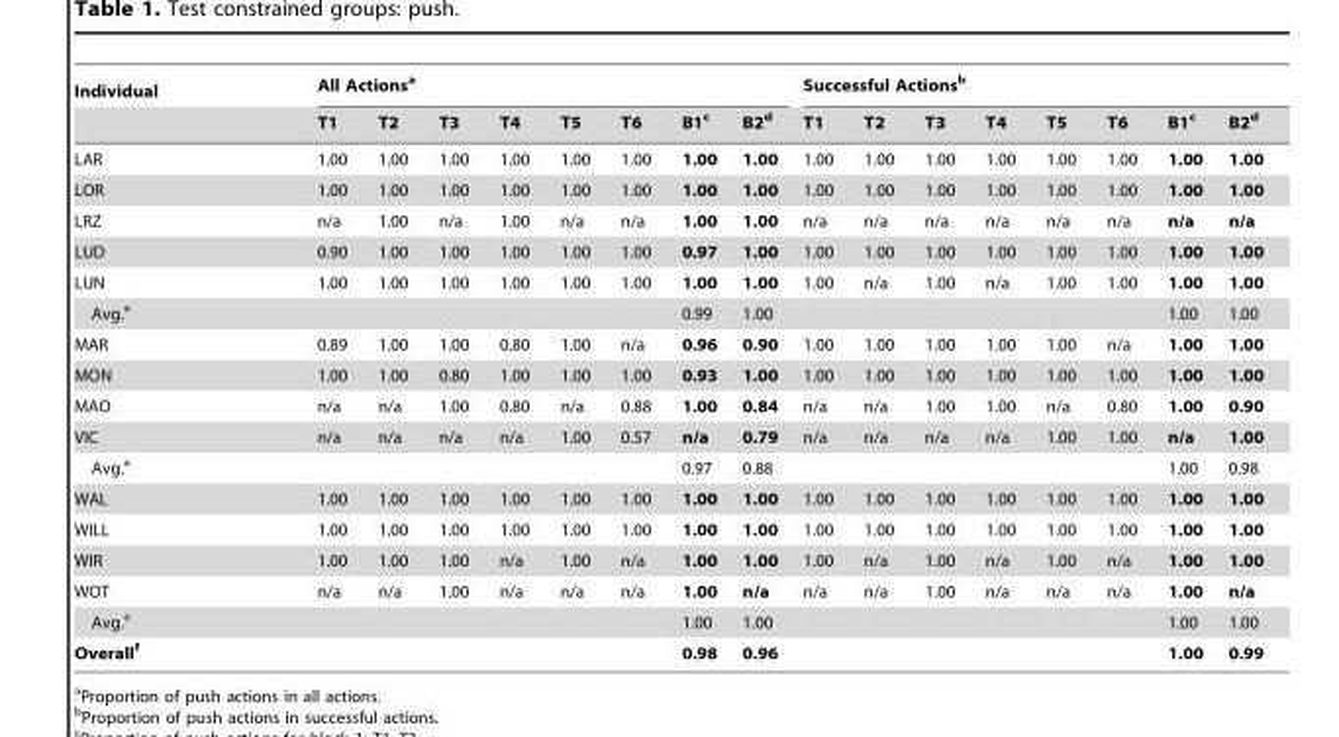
<table><thead><tr><td rowspan="2">Individual</td><td colspan="8">All Actions<sup>a</sup></td><td colspan="8">Successful Actions<sup>b</sup></td></tr><tr><td>T1</td><td>T2</td><td>T3</td><td>T4</td><td>T5</td><td>T6</td><td>B1<sup>c</sup></td><td>B2<sup>d</sup></td><td>T1</td><td>T2</td><td>T3</td><td>T4</td><td>T5</td><td>T6</td><td>B1<sup>c</sup></td><td>B2<sup>d</sup></td></tr></thead><tbody><tr><td>LAR</td><td>1.00</td><td>1.00</td><td>1.00</td><td>1.00</td><td>1.00</td><td>1.00</td><td>1.00</td><td>1.00</td><td>1.00</td><td>1.00</td><td>1.00</td><td>1.00</td><td>1.00</td><td>1.00</td><td>1.00</td><td>1.00</td></tr><tr><td>LOR</td><td>1.00</td><td>1.00</td><td>1.00</td><td>1.00</td><td>1.00</td><td>1.00</td><td>1.00</td><td>1.00</td><td>1.00</td><td>1.00</td><td>1.00</td><td>1.00</td><td>1.00</td><td>1.00</td><td>1.00</td><td>1.00</td></tr><tr><td>LRZ</td><td>n/a</td><td>1.00</td><td>n/a</td><td>1.00</td><td>n/a</td><td>n/a</td><td>1.00</td><td>1.00</td><td>n/a</td><td>n/a</td><td>n/a</td><td>n/a</td><td>n/a</td><td>n/a</td><td>n/a</td><td>n/a</td></tr><tr><td>LUD</td><td>0.90</td><td>1.00</td><td>1.00</td><td>1.00</td><td>1.00</td><td>1.00</td><td>0.97</td><td>1.00</td><td>1.00</td><td>1.00</td><td>1.00</td><td>1.00</td><td>1.00</td><td>1.00</td><td>1.00</td><td>1.00</td></tr><tr><td>LUN</td><td>1.00</td><td>1.00</td><td>1.00</td><td>1.00</td><td>1.00</td><td>1.00</td><td>1.00</td><td>1.00</td><td>1.00</td><td>n/a</td><td>1.00</td><td>n/a</td><td>1.00</td><td>1.00</td><td>1.00</td><td>1.00</td></tr><tr><td>Avg.<sup>e</sup></td><td></td><td></td><td></td><td></td><td></td><td></td><td>0.99</td><td>1.00</td><td></td><td></td><td></td><td></td><td></td><td></td><td>1.00</td><td>1.00</td></tr><tr><td>MAR</td><td>0.89</td><td>1.00</td><td>1.00</td><td>0.80</td><td>1.00</td><td>n/a</td><td>0.96</td><td>0.90</td><td>1.00</td><td>1.00</td><td>1.00</td><td>1.00</td><td>1.00</td><td>n/a</td><td>1.00</td><td>1.00</td></tr><tr><td>MON</td><td>1.00</td><td>1.00</td><td>0.80</td><td>1.00</td><td>1.00</td><td>1.00</td><td>0.93</td><td>1.00</td><td>1.00</td><td>1.00</td><td>1.00</td><td>1.00</td><td>1.00</td><td>1.00</td><td>1.00</td><td>1.00</td></tr><tr><td>MAO</td><td>n/a</td><td>n/a</td><td>1.00</td><td>0.80</td><td>n/a</td><td>0.88</td><td>1.00</td><td>0.84</td><td>n/a</td><td>n/a</td><td>1.00</td><td>1.00</td><td>n/a</td><td>0.80</td><td>1.00</td><td>0.90</td></tr><tr><td>VIC</td><td>n/a</td><td>n/a</td><td>n/a</td><td>n/a</td><td>1.00</td><td>0.57</td><td>n/a</td><td>0.79</td><td>n/a</td><td>n/a</td><td>n/a</td><td>n/a</td><td>1.00</td><td>1.00</td><td>n/a</td><td>1.00</td></tr><tr><td>Avg.<sup>e</sup></td><td></td><td></td><td></td><td></td><td></td><td></td><td>0.97</td><td>0.88</td><td></td><td></td><td></td><td></td><td></td><td></td><td>1.00</td><td>0.98</td></tr><tr><td>WAL</td><td>1.00</td><td>1.00</td><td>1.00</td><td>1.00</td><td>1.00</td><td>1.00</td><td>1.00</td><td>1.00</td><td>1.00</td><td>1.00</td><td>1.00</td><td>1.00</td><td>1.00</td><td>1.00</td><td>1.00</td><td>1.00</td></tr><tr><td>WILL</td><td>1.00</td><td>1.00</td><td>1.00</td><td>1.00</td><td>1.00</td><td>1.00</td><td>1.00</td><td>1.00</td><td>1.00</td><td>1.00</td><td>1.00</td><td>1.00</td><td>1.00</td><td>1.00</td><td>1.00</td><td>1.00</td></tr><tr><td>WIR</td><td>1.00</td><td>1.00</td><td>1.00</td><td>n/a</td><td>1.00</td><td>n/a</td><td>1.00</td><td>1.00</td><td>1.00</td><td>n/a</td><td>1.00</td><td>n/a</td><td>1.00</td><td>n/a</td><td>1.00</td><td>1.00</td></tr><tr><td>WOT</td><td>n/a</td><td>n/a</td><td>1.00</td><td>n/a</td><td>n/a</td><td>n/a</td><td>1.00</td><td>n/a</td><td>n/a</td><td>n/a</td><td>1.00</td><td>n/a</td><td>n/a</td><td>n/a</td><td>1.00</td><td>n/a</td></tr><tr><td>Avg.<sup>e</sup></td><td></td><td></td><td></td><td></td><td></td><td></td><td>1.00</td><td>1.00</td><td></td><td></td><td></td><td></td><td></td><td></td><td>1.00</td><td>1.00</td></tr><tr><td>Overallf</td><td></td><td></td><td></td><td></td><td></td><td></td><td>0.98</td><td>0.96</td><td></td><td></td><td></td><td></td><td></td><td></td><td>1.00</td><td>0.99</td></tr></tbody></table>